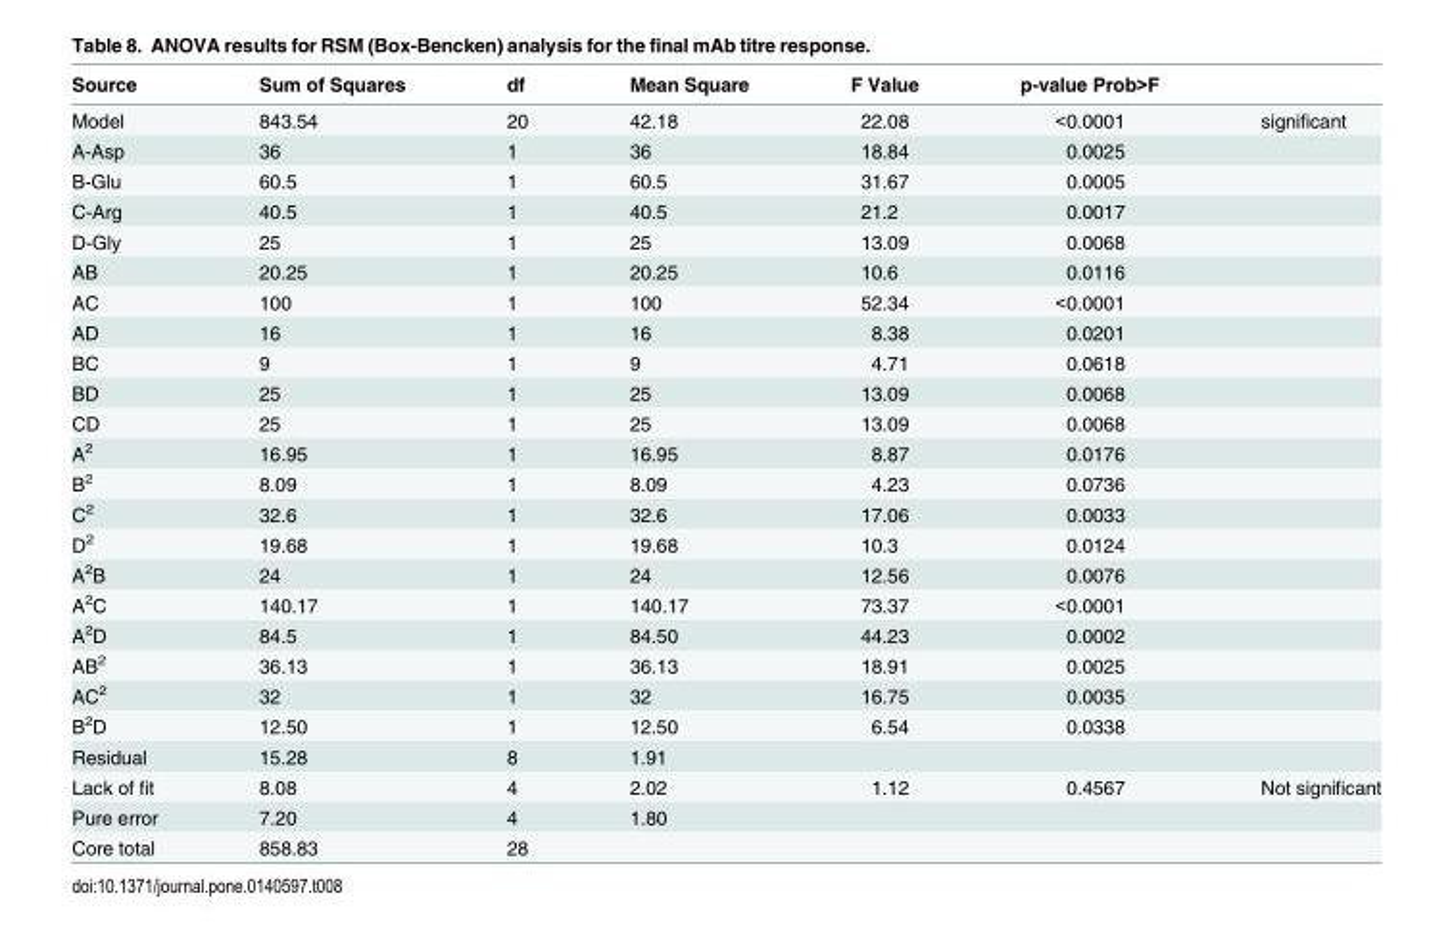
<table><thead><tr><td>Source</td><td>Sum of Squares</td><td>df</td><td>Mean Square</td><td>F Value</td><td>p-value Prob&gt;F</td><td></td></tr></thead><tbody><tr><td>Model</td><td>843.54</td><td>20</td><td>42.18</td><td>22.08</td><td>&lt;0.0001</td><td>significant</td></tr><tr><td>A-Asp</td><td>36</td><td>1</td><td>36</td><td>18.84</td><td>0.0025</td><td></td></tr><tr><td>B-Glu</td><td>60.5</td><td>1</td><td>60.5</td><td>31.67</td><td>0.0005</td><td></td></tr><tr><td>C-Arg</td><td>40.5</td><td>1</td><td>40.5</td><td>21.2</td><td>0.0017</td><td></td></tr><tr><td>D-Gly</td><td>25</td><td>1</td><td>25</td><td>13.09</td><td>0.0068</td><td></td></tr><tr><td>AB</td><td>20.25</td><td>1</td><td>20.25</td><td>10.6</td><td>0.0116</td><td></td></tr><tr><td>AC</td><td>100</td><td>1</td><td>100</td><td>52.34</td><td>&lt;0.0001</td><td></td></tr><tr><td>AD</td><td>16</td><td>1</td><td>16</td><td>8.38</td><td>0.0201</td><td></td></tr><tr><td>BC</td><td>9</td><td>1</td><td>9</td><td>4.71</td><td>0.0618</td><td></td></tr><tr><td>BD</td><td>25</td><td>1</td><td>25</td><td>13.09</td><td>0.0068</td><td></td></tr><tr><td>CD</td><td>25</td><td>1</td><td>25</td><td>13.09</td><td>0.0068</td><td></td></tr><tr><td>A<sup>2</sup></td><td>16.95</td><td>1</td><td>16.95</td><td>8.87</td><td>0.0176</td><td></td></tr><tr><td>B<sup>2</sup></td><td>8.09</td><td>1</td><td>8.09</td><td>4.23</td><td>0.0736</td><td></td></tr><tr><td>C<sup>2</sup></td><td>32.6</td><td>1</td><td>32.6</td><td>17.06</td><td>0.0033</td><td></td></tr><tr><td>D<sup>2</sup></td><td>19.68</td><td>1</td><td>19.68</td><td>10.3</td><td>0.0124</td><td></td></tr><tr><td>A<sup>2</sup>B</td><td>24</td><td>1</td><td>24</td><td>12.56</td><td>0.0076</td><td></td></tr><tr><td>A<sup>2</sup>C</td><td>140.17</td><td>1</td><td>140.17</td><td>73.37</td><td>&lt;0.0001</td><td></td></tr><tr><td>A<sup>2</sup>D</td><td>84.5</td><td>1</td><td>84.50</td><td>44.23</td><td>0.0002</td><td></td></tr><tr><td>AB<sup>2</sup></td><td>36.13</td><td>1</td><td>36.13</td><td>18.91</td><td>0.0025</td><td></td></tr><tr><td>AC<sup>2</sup></td><td>32</td><td>1</td><td>32</td><td>16.75</td><td>0.0035</td><td></td></tr><tr><td>B<sup>2</sup>D</td><td>12.50</td><td>1</td><td>12.50</td><td>6.54</td><td>0.0338</td><td></td></tr><tr><td>Residual</td><td>15.28</td><td>8</td><td>1.91</td><td></td><td></td><td></td></tr><tr><td>Lack of fit</td><td>8.08</td><td>4</td><td>2.02</td><td>1.12</td><td>0.4567</td><td>Not significant</td></tr><tr><td>Pure error</td><td>7.20</td><td>4</td><td>1.80</td><td></td><td></td><td></td></tr><tr><td>Core total</td><td>858.83</td><td>28</td><td></td><td></td><td></td><td></td></tr></tbody></table>